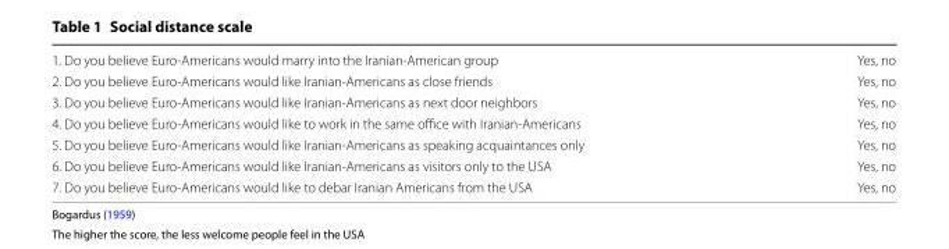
<table><tbody><tr><td>1. Do you believe Euro-Americans would marry into the Iranian-American group</td><td>Yes, no</td></tr><tr><td>2. Do you believe Euro-Americans would like Iranian-Americans as close friends</td><td>Yes, no</td></tr><tr><td>3. Do you believe Euro-Americans would like Iranian-Americans as next door neighbors</td><td>Yes, no</td></tr><tr><td>4. Do you believe Euro-Americans would like to work in the same office with Iranian-Americans</td><td>Yes, no</td></tr><tr><td>5. Do you believe Euro-Americans would like Iranian-Americans as speaking acquaintances only</td><td>Yes, no</td></tr><tr><td>6. Do you believe Euro-Americans would like Iranian-Americans as visitors only to the USA</td><td>Yes, no</td></tr><tr><td>7. Do you believe Euro-Americans would like to debar Iranian Americans from the USA</td><td>Yes, no</td></tr></tbody></table>